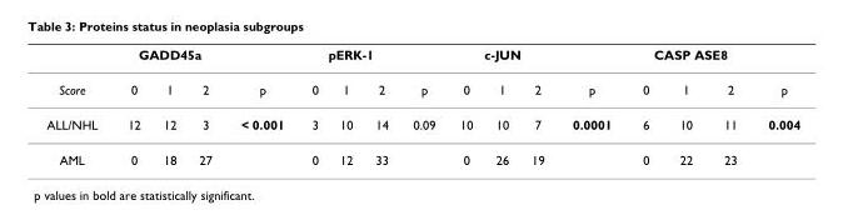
<table><thead><tr><td rowspan="2">Score</td><td colspan="3">GADD45a</td><td rowspan="2">p</td><td colspan="3">pERK-1</td><td rowspan="2">p</td><td colspan="3">c-JUN</td><td rowspan="2">p</td><td colspan="3">CASP ASE8</td><td rowspan="2">p</td></tr><tr><td>0</td><td>1</td><td>2</td><td>0</td><td>1</td><td>2</td><td>0</td><td>1</td><td>2</td><td>0</td><td>1</td><td>2</td></tr></thead><tbody><tr><td>ALL/NHL</td><td>12</td><td>12</td><td>3</td><td>&lt; 0.001</td><td>3</td><td>10</td><td>14</td><td>0.09</td><td>10</td><td>10</td><td>7</td><td>0.0001</td><td>6</td><td>10</td><td>11</td><td>0.004</td></tr><tr><td>AML</td><td>0</td><td>18</td><td>27</td><td></td><td>0</td><td>12</td><td>33</td><td></td><td>0</td><td>26</td><td>19</td><td></td><td>0</td><td>22</td><td>23</td><td></td></tr></tbody></table>